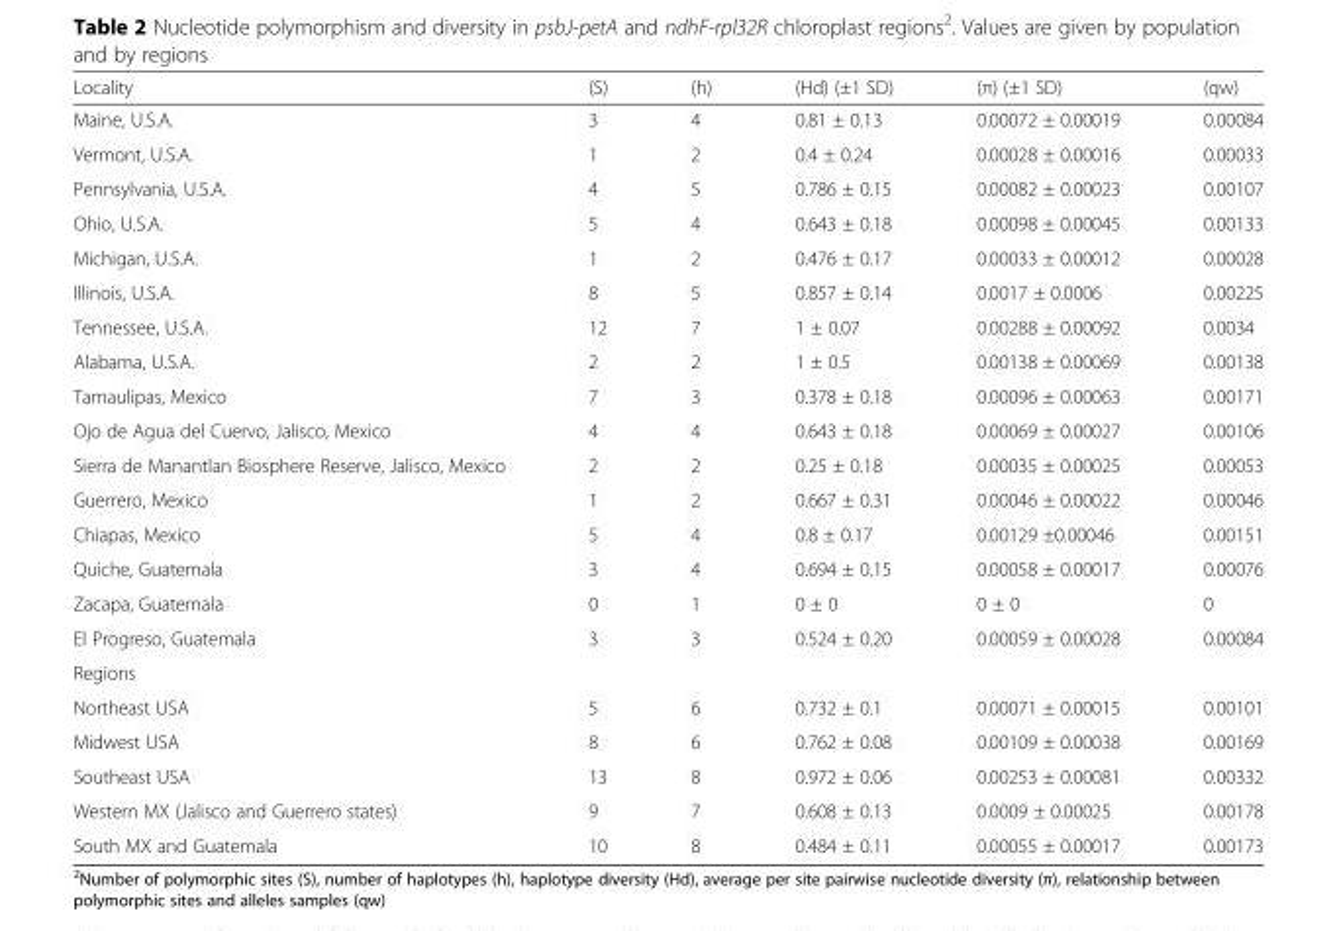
<table><thead><tr><td>Locality</td><td>(S)</td><td>(h)</td><td>(Hd) (±1 SD)</td><td>(π) (±1 SD)</td><td>(qw)</td></tr></thead><tbody><tr><td>Maine, U.S.A.</td><td>3</td><td>4</td><td>0.81 ± 0.13</td><td>0.00072 ± 0.00019</td><td>0.00084</td></tr><tr><td>Vermont, U.S.A.</td><td>1</td><td>2</td><td>0.4 ± 0.24</td><td>0.00028 ± 0.00016</td><td>0.00033</td></tr><tr><td>Pennsylvania, U.S.A.</td><td>4</td><td>5</td><td>0.786 ± 0.15</td><td>0.00082 ± 0.00023</td><td>0.00107</td></tr><tr><td>Ohio, U.S.A.</td><td>5</td><td>4</td><td>0.643 ± 0.18</td><td>0.00098 ± 0.00045</td><td>0.00133</td></tr><tr><td>Michigan, U.S.A.</td><td>1</td><td>2</td><td>0.476 ± 0.17</td><td>0.00033 ± 0.00012</td><td>0.00028</td></tr><tr><td>Illinois, U.S.A.</td><td>8</td><td>5</td><td>0.857 ± 0.14</td><td>0.0017 ± 0.0006</td><td>0.00225</td></tr><tr><td>Tennessee, U.S.A.</td><td>12</td><td>7</td><td>1 ± 0.07</td><td>0.00288 ± 0.00092</td><td>0.0034</td></tr><tr><td>Alabama, U.S.A.</td><td>2</td><td>2</td><td>1 ± 0.5</td><td>0.00138 ± 0.00069</td><td>0.00138</td></tr><tr><td>Tamaulipas, Mexico</td><td>7</td><td>3</td><td>0.378 ± 0.18</td><td>0.00096 ± 0.00063</td><td>0.00171</td></tr><tr><td>Ojo de Agua del Cuervo, Jalisco, Mexico</td><td>4</td><td>4</td><td>0.643 ± 0.18</td><td>0.00069 ± 0.00027</td><td>0.00106</td></tr><tr><td>Sierra de Manantlan Biosphere Reserve, Jalisco, Mexico</td><td>2</td><td>2</td><td>0.25 ± 0.18</td><td>0.00035 ± 0.00025</td><td>0.00053</td></tr><tr><td>Guerrero, Mexico</td><td>1</td><td>2</td><td>0.667 ± 0.31</td><td>0.00046 ± 0.00022</td><td>0.00046</td></tr><tr><td>Chiapas, Mexico</td><td>5</td><td>4</td><td>0.8 ± 0.17</td><td>0.00129 ±0.00046</td><td>0.00151</td></tr><tr><td>Quiche, Guatemala</td><td>3</td><td>4</td><td>0.694 ± 0.15</td><td>0.00058 ± 0.00017</td><td>0.00076</td></tr><tr><td>Zacapa, Guatemala</td><td>0</td><td>1</td><td>0 ± 0</td><td>0 ± 0</td><td>0</td></tr><tr><td>El Progreso, Guatemala</td><td>3</td><td>3</td><td>0.524 ± 0.20</td><td>0.00059 ± 0.00028</td><td>0.00084</td></tr><tr><td colspan="6">Regions</td></tr><tr><td>Northeast USA</td><td>5</td><td>6</td><td>0.732 ± 0.1</td><td>0.00071 ± 0.00015</td><td>0.00101</td></tr><tr><td>Midwest USA</td><td>8</td><td>6</td><td>0.762 ± 0.08</td><td>0.00109 ± 0.00038</td><td>0.00169</td></tr><tr><td>Southeast USA</td><td>13</td><td>8</td><td>0.972 ± 0.06</td><td>0.00253 ± 0.00081</td><td>0.00332</td></tr><tr><td>Western MX (Jalisco and Guerrero states)</td><td>9</td><td>7</td><td>0.608 ± 0.13</td><td>0.0009 ± 0.00025</td><td>0.00178</td></tr><tr><td>South MX and Guatemala</td><td>10</td><td>8</td><td>0.484 ± 0.11</td><td>0.00055 ± 0.00017</td><td>0.00173</td></tr></tbody></table>